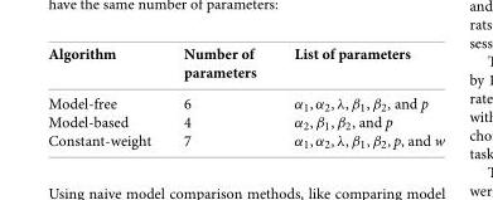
<table><thead><tr><td>Algorithm</td><td>Number of parameters</td><td>List of parameters</td></tr></thead><tbody><tr><td>Model-free</td><td>6</td><td>α<sub>1</sub>, α<sub>2</sub>, λ, β<sub>1</sub>, β<sub>2</sub>, and p</td></tr><tr><td>Model-based</td><td>4</td><td>α<sub>2</sub>, β<sub>1</sub>, β<sub>2</sub>, and p</td></tr><tr><td>Constant-weight</td><td>7</td><td>α<sub>1</sub>, α<sub>2</sub>, λ, β<sub>1</sub>, β<sub>2</sub>, p, and w</td></tr></tbody></table>